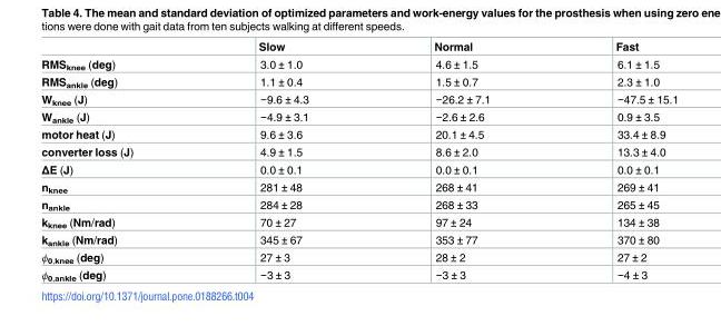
<table><thead><tr><td></td><td>Slow</td><td>Normal</td><td>Fast</td></tr></thead><tbody><tr><td>RMS<sub>knee</sub> (deg)</td><td>3.0 ± 1.0</td><td>4.6 ± 1.5</td><td>6.1 ± 1.5</td></tr><tr><td>RMS<sub>ankle</sub> (deg)</td><td>1.1 ± 0.4</td><td>1.5 ± 0.7</td><td>2.3 ± 1.0</td></tr><tr><td>W<sub>knee</sub> (J)</td><td>−9.6 ± 4.3</td><td>−26.2 ± 7.1</td><td>−47.5 ± 15.1</td></tr><tr><td>W<sub>ankle</sub> (J)</td><td>−4.9 ± 3.1</td><td>−2.6 ± 2.6</td><td>0.9 ± 3.5</td></tr><tr><td>motor heat (J)</td><td>9.6 ± 3.6</td><td>20.1 ± 4.5</td><td>33.4 ± 8.9</td></tr><tr><td>converter loss (J)</td><td>4.9 ± 1.5</td><td>8.6 ± 2.0</td><td>13.3 ± 4.0</td></tr><tr><td>ΔE (J)</td><td>0.0 ± 0.1</td><td>0.0 ± 0.1</td><td>0.0 ± 0.1</td></tr><tr><td>n<sub>knee</sub></td><td>281 ± 48</td><td>268 ± 41</td><td>269 ± 41</td></tr><tr><td>n<sub>ankle</sub></td><td>284 ± 28</td><td>268 ± 33</td><td>265 ± 45</td></tr><tr><td>k<sub>knee</sub> (Nm/rad)</td><td>70 ± 27</td><td>97 ± 24</td><td>134 ± 38</td></tr><tr><td>k<sub>ankle</sub> (Nm/rad)</td><td>345 ± 67</td><td>353 ± 77</td><td>370 ± 80</td></tr><tr><td>ϕ<sub>0,knee</sub> (deg)</td><td>27 ± 3</td><td>28 ± 2</td><td>27 ± 2</td></tr><tr><td>ϕ<sub>0,ankle</sub> (deg)</td><td>−3 ± 3</td><td>−3 ± 3</td><td>−4 ± 3</td></tr></tbody></table>